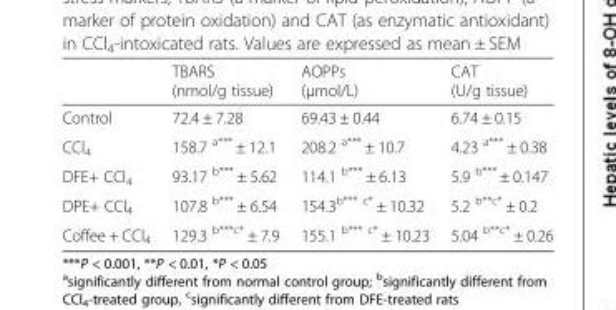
<table><thead><tr><td></td><td>TBARS (nmol/g tissue)</td><td>AOPPs (μmol/L)</td><td>CAT (U/g tissue)</td></tr></thead><tbody><tr><td>Control</td><td>72.4 ± 7.28</td><td>69.43 ± 0.44</td><td>6.74 ± 0.15</td></tr><tr><td>CCl<sub>4</sub></td><td>158.7 <sup>a***</sup> ± 12.1</td><td>208.2 <sup>a***</sup> ± 10.7</td><td>4.23 <sup>a***</sup> ± 0.38</td></tr><tr><td>DFE+ CCl<sub>4</sub></td><td>93.17 <sup>b***</sup> ± 5.62</td><td>114.1 <sup>b***</sup> ± 6.13</td><td>5.9 <sup>b***</sup> ± 0.147</td></tr><tr><td>DPE+ CCl<sub>4</sub></td><td>107.8 <sup>b***</sup> ± 6.54</td><td>154.3<sup>b*** c*</sup> ± 10.32</td><td>5.2 <sup>b**c*</sup> ± 0.2</td></tr><tr><td>Coffee + CCl<sub>4</sub></td><td>129.3 <sup>b***c*</sup> ± 7.9</td><td>155.1 <sup>b*** c*</sup> ± 10.23</td><td>5.04 <sup>b**c*</sup> ± 0.26</td></tr></tbody></table>